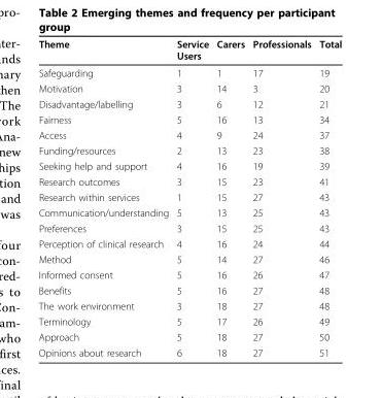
<table><thead><tr><td>Theme</td><td>Service Users</td><td>Carers</td><td>Professionals</td><td>Total</td></tr></thead><tbody><tr><td>Safeguarding</td><td>1</td><td>1</td><td>17</td><td>19</td></tr><tr><td>Motivation</td><td>3</td><td>14</td><td>3</td><td>20</td></tr><tr><td>Disadvantage/labelling</td><td>3</td><td>6</td><td>12</td><td>21</td></tr><tr><td>Fairness</td><td>5</td><td>16</td><td>13</td><td>34</td></tr><tr><td>Access</td><td>4</td><td>9</td><td>24</td><td>37</td></tr><tr><td>Funding/resources</td><td>2</td><td>13</td><td>23</td><td>38</td></tr><tr><td>Seeking help and support</td><td>4</td><td>16</td><td>19</td><td>39</td></tr><tr><td>Research outcomes</td><td>3</td><td>15</td><td>23</td><td>41</td></tr><tr><td>Research within services</td><td>1</td><td>15</td><td>27</td><td>43</td></tr><tr><td>Communication/understanding</td><td>5</td><td>13</td><td>25</td><td>43</td></tr><tr><td>Preferences</td><td>3</td><td>15</td><td>25</td><td>43</td></tr><tr><td>Perception of clinical research</td><td>4</td><td>16</td><td>24</td><td>44</td></tr><tr><td>Method</td><td>5</td><td>14</td><td>27</td><td>46</td></tr><tr><td>Informed consent</td><td>5</td><td>16</td><td>26</td><td>47</td></tr><tr><td>Benefits</td><td>5</td><td>16</td><td>27</td><td>48</td></tr><tr><td>The work environment</td><td>3</td><td>18</td><td>27</td><td>48</td></tr><tr><td>Terminology</td><td>5</td><td>17</td><td>26</td><td>49</td></tr><tr><td>Approach</td><td>5</td><td>18</td><td>27</td><td>50</td></tr><tr><td>Opinions about research</td><td>6</td><td>18</td><td>27</td><td>51</td></tr></tbody></table>